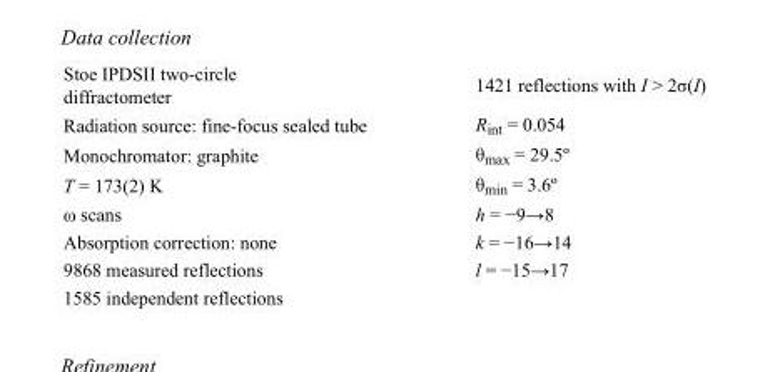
<table><tbody><tr><td>Stoe IPDSII two-circle diffractometer</td><td>1421 reflections with I &gt; 2σ(I)</td></tr><tr><td>Radiation source: fine-focus sealed tube</td><td>R<sub>int</sub> = 0.054</td></tr><tr><td>Monochromator: graphite</td><td>θ<sub>max</sub> = 29.5º</td></tr><tr><td>T = 173(2) K</td><td>θ<sub>min</sub> = 3.6º</td></tr><tr><td>ω scans</td><td>h = −9→8</td></tr><tr><td>Absorption correction: none</td><td>k = −16→14</td></tr><tr><td>9868 measured reflections</td><td>l = −15→17</td></tr><tr><td>1585 independent reflections</td><td></td></tr></tbody></table>